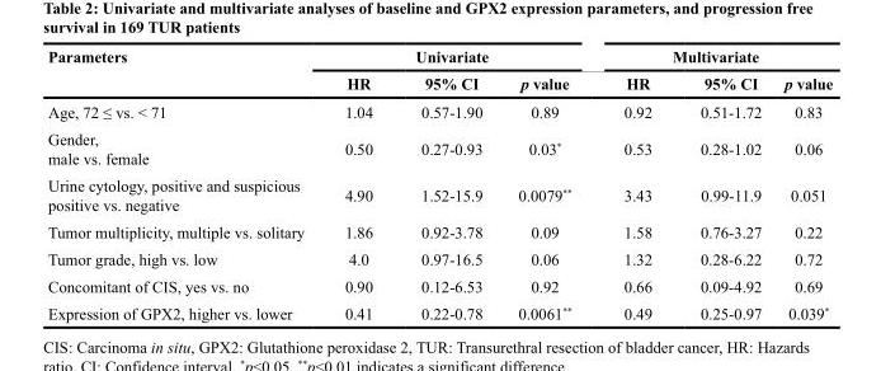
<table><thead><tr><td rowspan="2">Parameters</td><td colspan="3">Univariate</td><td colspan="3">Multivariate</td></tr><tr><td>HR</td><td>95% CI</td><td>p value</td><td>HR</td><td>95% CI</td><td>p value</td></tr></thead><tbody><tr><td>Age, 72 ≤ vs. &lt; 71</td><td>1.04</td><td>0.57-1.90</td><td>0.89</td><td>0.92</td><td>0.51-1.72</td><td>0.83</td></tr><tr><td>Gender, male vs. female</td><td>0.50</td><td>0.27-0.93</td><td>0.03*</td><td>0.53</td><td>0.28-1.02</td><td>0.06</td></tr><tr><td>Urine cytology, positive and suspicious positive vs. negative</td><td>4.90</td><td>1.52-15.9</td><td>0.0079**</td><td>3.43</td><td>0.99-11.9</td><td>0.051</td></tr><tr><td>Tumor multiplicity, multiple vs. solitary</td><td>1.86</td><td>0.92-3.78</td><td>0.09</td><td>1.58</td><td>0.76-3.27</td><td>0.22</td></tr><tr><td>Tumor grade, high vs. low</td><td>4.0</td><td>0.97-16.5</td><td>0.06</td><td>1.32</td><td>0.28-6.22</td><td>0.72</td></tr><tr><td>Concomitant of CIS, yes vs. no</td><td>0.90</td><td>0.12-6.53</td><td>0.92</td><td>0.66</td><td>0.09-4.92</td><td>0.69</td></tr><tr><td>Expression of GPX2, higher vs. lower</td><td>0.41</td><td>0.22-0.78</td><td>0.0061**</td><td>0.49</td><td>0.25-0.97</td><td>0.039*</td></tr></tbody></table>